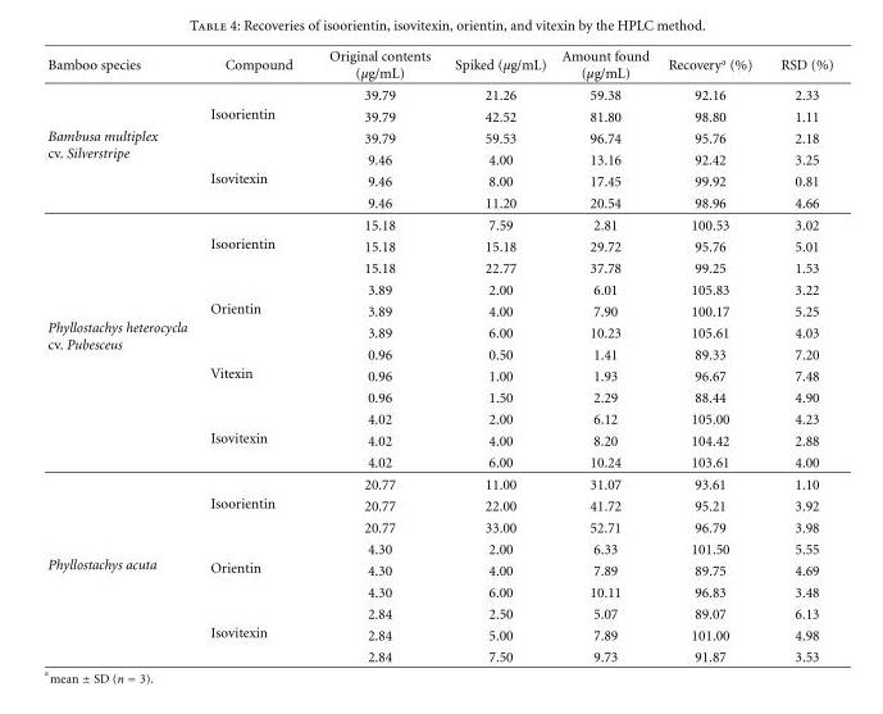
<table><thead><tr><td>Bamboo species</td><td>Compound</td><td>Original contents (μg/mL)</td><td>Spiked (μg/mL)</td><td>Amount found (μg/mL)</td><td>Recovery<sup>a</sup> (%)</td><td>RSD (%)</td></tr></thead><tbody><tr><td rowspan="6">Bambusa multiplex cv. Silverstripe</td><td rowspan="3">Isoorientin</td><td>39.79</td><td>21.26</td><td>59.38</td><td>92.16</td><td>2.33</td></tr><tr><td>39.79</td><td>42.52</td><td>81.80</td><td>98.80</td><td>1.11</td></tr><tr><td>39.79</td><td>59.53</td><td>96.74</td><td>95.76</td><td>2.18</td></tr><tr><td rowspan="3">Isovitexin</td><td>9.46</td><td>4.00</td><td>13.16</td><td>92.42</td><td>3.25</td></tr><tr><td>9.46</td><td>8.00</td><td>17.45</td><td>99.92</td><td>0.81</td></tr><tr><td>9.46</td><td>11.20</td><td>20.54</td><td>98.96</td><td>4.66</td></tr><tr><td rowspan="12">Phyllostachys heterocycla cv. Pubesceus</td><td rowspan="3">Isoorientin</td><td>15.18</td><td>7.59</td><td>2.81</td><td>100.53</td><td>3.02</td></tr><tr><td>15.18</td><td>15.18</td><td>29.72</td><td>95.76</td><td>5.01</td></tr><tr><td>15.18</td><td>22.77</td><td>37.78</td><td>99.25</td><td>1.53</td></tr><tr><td rowspan="3">Orientin</td><td>3.89</td><td>2.00</td><td>6.01</td><td>105.83</td><td>3.22</td></tr><tr><td>3.89</td><td>4.00</td><td>7.90</td><td>100.17</td><td>5.25</td></tr><tr><td>3.89</td><td>6.00</td><td>10.23</td><td>105.61</td><td>4.03</td></tr><tr><td rowspan="3">Vitexin</td><td>0.96</td><td>0.50</td><td>1.41</td><td>89.33</td><td>7.20</td></tr><tr><td>0.96</td><td>1.00</td><td>1.93</td><td>96.67</td><td>7.48</td></tr><tr><td>0.96</td><td>1.50</td><td>2.29</td><td>88.44</td><td>4.90</td></tr><tr><td rowspan="3">Isovitexin</td><td>4.02</td><td>2.00</td><td>6.12</td><td>105.00</td><td>4.23</td></tr><tr><td>4.02</td><td>4.00</td><td>8.20</td><td>104.42</td><td>2.88</td></tr><tr><td>4.02</td><td>6.00</td><td>10.24</td><td>103.61</td><td>4.00</td></tr><tr><td rowspan="9">Phyllostachys acuta</td><td rowspan="3">Isoorientin</td><td>20.77</td><td>11.00</td><td>31.07</td><td>93.61</td><td>1.10</td></tr><tr><td>20.77</td><td>22.00</td><td>41.72</td><td>95.21</td><td>3.92</td></tr><tr><td>20.77</td><td>33.00</td><td>52.71</td><td>96.79</td><td>3.98</td></tr><tr><td rowspan="3">Orientin</td><td>4.30</td><td>2.00</td><td>6.33</td><td>101.50</td><td>5.55</td></tr><tr><td>4.30</td><td>4.00</td><td>7.89</td><td>89.75</td><td>4.69</td></tr><tr><td>4.30</td><td>6.00</td><td>10.11</td><td>96.83</td><td>3.48</td></tr><tr><td rowspan="3">Isovitexin</td><td>2.84</td><td>2.50</td><td>5.07</td><td>89.07</td><td>6.13</td></tr><tr><td>2.84</td><td>5.00</td><td>7.89</td><td>101.00</td><td>4.98</td></tr><tr><td>2.84</td><td>7.50</td><td>9.73</td><td>91.87</td><td>3.53</td></tr></tbody></table>